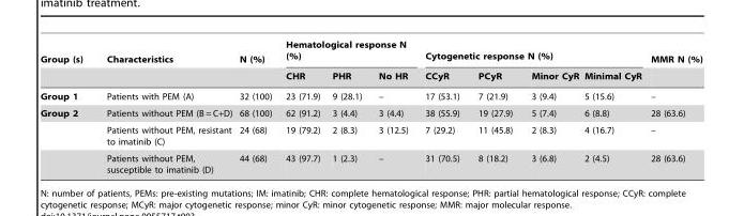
<table><thead><tr><td rowspan="2">Group (s)</td><td rowspan="2">Characteristics</td><td rowspan="2">N (%)</td><td colspan="3">Hematological response N (%)</td><td colspan="4">Cytogenetic response N (%)</td><td rowspan="2">MMR N (%)</td></tr><tr><td>CHR</td><td>PHR</td><td>No HR</td><td>CCyR</td><td>PCyR</td><td>Minor CyR</td><td>Minimal CyR</td></tr></thead><tbody><tr><td>Group 1</td><td>Patients with PEM (A)</td><td>32 (100)</td><td>23 (71.9)</td><td>9 (28.1)</td><td>–</td><td>17 (53.1)</td><td>7 (21.9)</td><td>3 (9.4)</td><td>5 (15.6)</td><td>–</td></tr><tr><td rowspan="3">Group 2</td><td>Patients without PEM (B = C+D)</td><td>68 (100)</td><td>62 (91.2)</td><td>3 (4.4)</td><td>3 (4.4)</td><td>38 (55.9)</td><td>19 (27.9)</td><td>5 (7.4)</td><td>6 (8.8)</td><td>28 (63.6)</td></tr><tr><td>Patients without PEM, resistant to imatinib (C)</td><td>24 (68)</td><td>19 (79.2)</td><td>2 (8.3)</td><td>3 (12.5)</td><td>7 (29.2)</td><td>11 (45.8)</td><td>2 (8.3)</td><td>4 (16.7)</td><td>–</td></tr><tr><td>Patients without PEM, susceptible to imatinib (D)</td><td>44 (68)</td><td>43 (97.7)</td><td>1 (2.3)</td><td>–</td><td>31 (70.5)</td><td>8 (18.2)</td><td>3 (6.8)</td><td>2 (4.5)</td><td>28 (63.6)</td></tr></tbody></table>